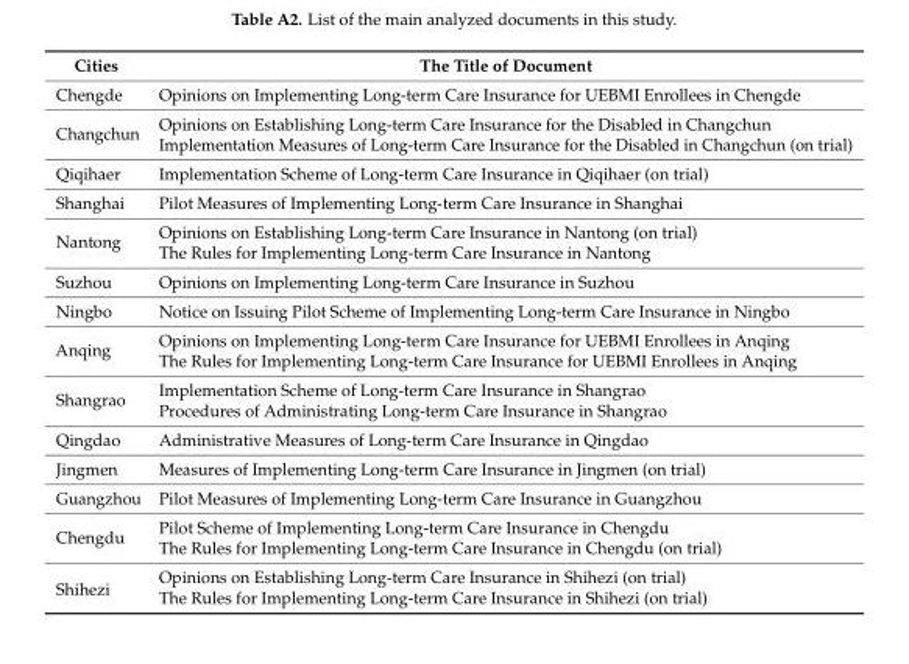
<table><thead><tr><td>Cities</td><td>The Title of Document</td></tr></thead><tbody><tr><td>Chengde</td><td>Opinions on Implementing Long-term Care Insurance for UEBMI Enrollees in Chengde</td></tr><tr><td rowspan="2">Changchun</td><td>Opinions on Establishing Long-term Care Insurance for the Disabled in Changchun</td></tr><tr><td>Implementation Measures of Long-term Care Insurance for the Disabled in Changchun (on trial)</td></tr><tr><td>Qiqihaer</td><td>Implementation Scheme of Long-term Care Insurance in Qiqihaer (on trial)</td></tr><tr><td>Shanghai</td><td>Pilot Measures of Implementing Long-term Care Insurance in Shanghai</td></tr><tr><td rowspan="2">Nantong</td><td>Opinions on Establishing Long-term Care Insurance in Nantong (on trial)</td></tr><tr><td>The Rules for Implementing Long-term Care Insurance in Nantong</td></tr><tr><td>Suzhou</td><td>Opinions on Implementing Long-term Care Insurance in Suzhou</td></tr><tr><td>Ningbo</td><td>Notice on Issuing Pilot Scheme of Implementing Long-term Care Insurance in Ningbo</td></tr><tr><td rowspan="2">Anqing</td><td>Opinions on Implementing Long-term Care Insurance for UEBMI Enrollees in Anqing</td></tr><tr><td>The Rules for Implementing Long-term Care Insurance for UEBMI Enrollees in Anqing</td></tr><tr><td rowspan="2">Shangrao</td><td>Implementation Scheme of Long-term Care Insurance in Shangrao</td></tr><tr><td>Procedures of Administrating Long-term Care Insurance in Shangrao</td></tr><tr><td>Qingdao</td><td>Administrative Measures of Long-term Care Insurance in Qingdao</td></tr><tr><td>Jingmen</td><td>Measures of Implementing Long-term Care Insurance in Jingmen (on trial)</td></tr><tr><td>Guangzhou</td><td>Pilot Measures of Implementing Long-term Care Insurance in Guangzhou</td></tr><tr><td rowspan="2">Chengdu</td><td>Pilot Scheme of Implementing Long-term Care Insurance in Chengdu</td></tr><tr><td>The Rules for Implementing Long-term Care Insurance in Chengdu (on trial)</td></tr><tr><td rowspan="2">Shihezi</td><td>Opinions on Establishing Long-term Care Insurance in Shihezi (on trial)</td></tr><tr><td>The Rules for Implementing Long-term Care Insurance in Shihezi (on trial)</td></tr></tbody></table>